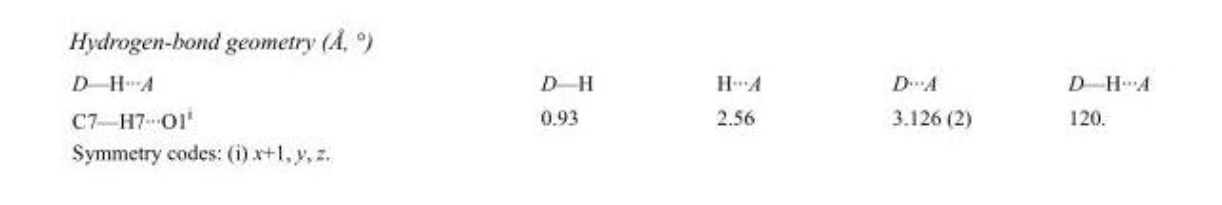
<table><tbody><tr><td>D—H···A</td><td>D—H</td><td>H···A</td><td>D···A</td><td>D—H···A</td></tr><tr><td>C7—H7···O1<sup>i</sup></td><td>0.93</td><td>2.56</td><td>3.126 (2)</td><td>120.</td></tr></tbody></table>